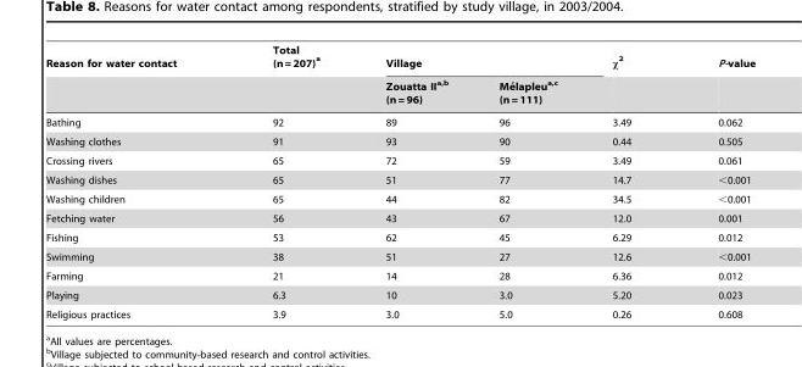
<table><thead><tr><td rowspan="2">Reason for water contact</td><td rowspan="2">Total (n = 207) <sup>a</sup></td><td colspan="2">Village</td><td rowspan="2">χ <sup>2</sup></td><td rowspan="2">P-value</td></tr><tr><td>Zouatta IIa,b (n = 96)</td><td>Me´lapleua,c (n = 111)</td></tr></thead><tbody><tr><td>Bathing</td><td>92</td><td>89</td><td>96</td><td>3.49</td><td>0.062</td></tr><tr><td>Washing clothes</td><td>91</td><td>93</td><td>90</td><td>0.44</td><td>0.505</td></tr><tr><td>Crossing rivers</td><td>65</td><td>72</td><td>59</td><td>3.49</td><td>0.061</td></tr><tr><td>Washing dishes</td><td>65</td><td>51</td><td>77</td><td>14.7</td><td>&lt;0.001</td></tr><tr><td>Washing children</td><td>65</td><td>44</td><td>82</td><td>34.5</td><td>&lt;0.001</td></tr><tr><td>Fetching water</td><td>56</td><td>43</td><td>67</td><td>12.0</td><td>0.001</td></tr><tr><td>Fishing</td><td>53</td><td>62</td><td>45</td><td>6.29</td><td>0.012</td></tr><tr><td>Swimming</td><td>38</td><td>51</td><td>27</td><td>12.6</td><td>&lt;0.001</td></tr><tr><td>Farming</td><td>21</td><td>14</td><td>28</td><td>6.36</td><td>0.012</td></tr><tr><td>Playing</td><td>6.3</td><td>10</td><td>3.0</td><td>5.20</td><td>0.023</td></tr><tr><td>Religious practices</td><td>3.9</td><td>3.0</td><td>5.0</td><td>0.26</td><td>0.608</td></tr></tbody></table>